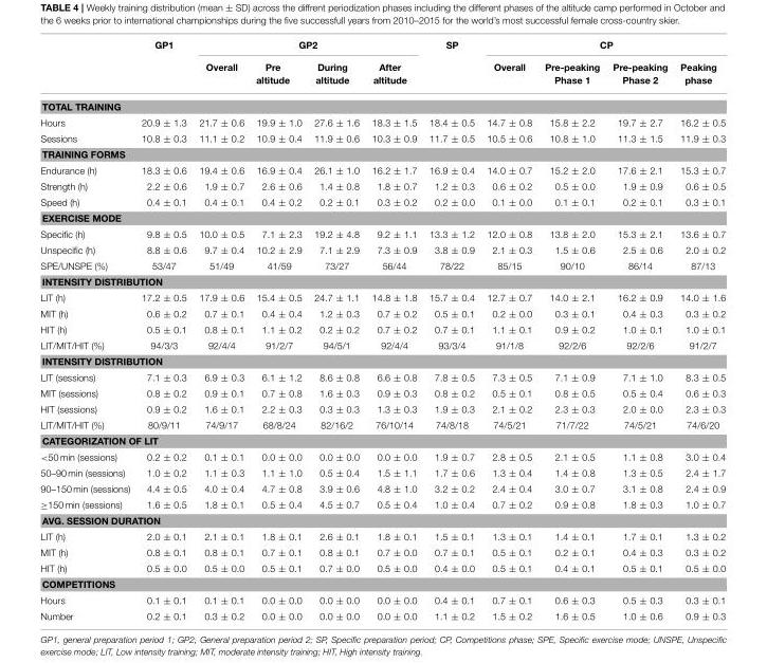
<table><thead><tr><td rowspan="2"></td><td rowspan="2">GP1</td><td colspan="4">GP2</td><td rowspan="2">SP</td><td colspan="4">CP</td></tr><tr><td>Overall</td><td>Pre altitude</td><td>During altitude</td><td>After altitude</td><td>Overall</td><td>Pre-peaking Phase 1</td><td>Pre-peaking Phase 2</td><td>Peaking phase</td></tr></thead><tbody><tr><td colspan="11">TOTAL TRAINING</td></tr><tr><td>Hours</td><td>20.9 ± 1.3</td><td>21.7 ± 0.6</td><td>19.9 ± 1.0</td><td>27.6 ± 1.6</td><td>18.3 ± 1.5</td><td>18.4 ± 0.5</td><td>14.7 ± 0.8</td><td>15.8 ± 2.2</td><td>19.7 ± 2.7</td><td>16.2 ± 0.5</td></tr><tr><td>Sessions</td><td>10.8 ± 0.3</td><td>11.1 ± 0.2</td><td>10.9 ± 0.4</td><td>11.9 ± 0.6</td><td>10.3 ± 0.9</td><td>11.7 ± 0.5</td><td>10.5 ± 0.6</td><td>10.8 ± 1.0</td><td>11.3 ± 1.5</td><td>11.9 ± 0.3</td></tr><tr><td colspan="11">TRAINING FORMS</td></tr><tr><td>Endurance (h)</td><td>18.3 ± 0.6</td><td>19.4 ± 0.6</td><td>16.9 ± 0.4</td><td>26.1 ± 1.0</td><td>16.2 ± 1.7</td><td>16.9 ± 0.4</td><td>14.0 ± 0.7</td><td>15.2 ± 2.0</td><td>17.6 ± 2.1</td><td>15.3 ± 0.7</td></tr><tr><td>Strength (h)</td><td>2.2 ± 0.6</td><td>1.9 ± 0.7</td><td>2.6 ± 0.6</td><td>1.4 ± 0.8</td><td>1.8 ± 0.7</td><td>1.2 ± 0.3</td><td>0.6 ± 0.2</td><td>0.5 ± 0.0</td><td>1.9 ± 0.9</td><td>0.6 ± 0.5</td></tr><tr><td>Speed (h)</td><td>0.4 ± 0.1</td><td>0.4 ± 0.1</td><td>0.4 ± 0.2</td><td>0.2 ± 0.1</td><td>0.3 ± 0.2</td><td>0.2 ± 0.0</td><td>0.1 ± 0.0</td><td>0.1 ± 0.1</td><td>0.2 ± 0.1</td><td>0.3 ± 0.1</td></tr><tr><td colspan="11">EXERCISE MODE</td></tr><tr><td>Specific (h)</td><td>9.8 ± 0.5</td><td>10.0 ± 0.5</td><td>7.1 ± 2.3</td><td>19.2 ± 4.8</td><td>9.2 ± 1.1</td><td>13.3 ± 1.2</td><td>12.0 ± 0.8</td><td>13.8 ± 2.0</td><td>15.3 ± 2.1</td><td>13.6 ± 0.7</td></tr><tr><td>Unspecific (h)</td><td>8.8 ± 0.6</td><td>9.7 ± 0.4</td><td>10.2 ± 2.9</td><td>7.1 ± 2.9</td><td>7.3 ± 0.9</td><td>3.8 ± 0.9</td><td>2.1 ± 0.3</td><td>1.5 ± 0.6</td><td>2.5 ± 0.6</td><td>2.0 ± 0.2</td></tr><tr><td>SPE/UNSPE (%)</td><td>53/47</td><td>51/49</td><td>41/59</td><td>73/27</td><td>56/44</td><td>78/22</td><td>85/15</td><td>90/10</td><td>86/14</td><td>87/13</td></tr><tr><td colspan="11">INTENSITY DISTRIBUTION</td></tr><tr><td>LIT (h)</td><td>17.2 ± 0.5</td><td>17.9 ± 0.6</td><td>15.4 ± 0.5</td><td>24.7 ± 1.1</td><td>14.8 ± 1.8</td><td>15.7 ± 0.4</td><td>12.7 ± 0.7</td><td>14.0 ± 2.1</td><td>16.2 ± 0.9</td><td>14.0 ± 1.6</td></tr><tr><td>MIT (h)</td><td>0.6 ± 0.2</td><td>0.7 ± 0.1</td><td>0.4 ± 0.4</td><td>1.2 ± 0.3</td><td>0.7 ± 0.2</td><td>0.5 ± 0.1</td><td>0.2 ± 0.0</td><td>0.3 ± 0.1</td><td>0.4 ± 0.3</td><td>0.3 ± 0.2</td></tr><tr><td>HIT (h)</td><td>0.5 ± 0.1</td><td>0.8 ± 0.1</td><td>1.1 ± 0.2</td><td>0.2 ± 0.2</td><td>0.7 ± 0.2</td><td>0.7 ± 0.1</td><td>1.1 ± 0.1</td><td>0.9 ± 0.2</td><td>1.0 ± 0.1</td><td>1.0 ± 0.1</td></tr><tr><td>LIT/MIT/HIT (%)</td><td>94/3/3</td><td>92/4/4</td><td>91/2/7</td><td>94/5/1</td><td>92/4/4</td><td>93/3/4</td><td>91/1/8</td><td>92/2/6</td><td>92/2/6</td><td>91/2/7</td></tr><tr><td colspan="11">INTENSITY DISTRIBUTION</td></tr><tr><td>LIT (sessions)</td><td>7.1 ± 0.3</td><td>6.9 ± 0.3</td><td>6.1 ± 1.2</td><td>8.6 ± 0.8</td><td>6.6 ± 0.8</td><td>7.8 ± 0.5</td><td>7.3 ± 0.5</td><td>7.1 ± 0.9</td><td>7.1 ± 1.0</td><td>8.3 ± 0.5</td></tr><tr><td>MIT (sessions)</td><td>0.8 ± 0.2</td><td>0.9 ± 0.1</td><td>0.7 ± 0.8</td><td>1.6 ± 0.3</td><td>0.9 ± 0.3</td><td>0.8 ± 0.2</td><td>0.5 ± 0.1</td><td>0.8 ± 0.5</td><td>0.5 ± 0.4</td><td>0.6 ± 0.3</td></tr><tr><td>HIT (sessions)</td><td>0.9 ± 0.2</td><td>1.6 ± 0.1</td><td>2.2 ± 0.3</td><td>0.3 ± 0.3</td><td>1.3 ± 0.3</td><td>1.9 ± 0.3</td><td>2.1 ± 0.2</td><td>2.3 ± 0.3</td><td>2.0 ± 0.0</td><td>2.3 ± 0.3</td></tr><tr><td>LIT/MIT/HIT (%)</td><td>80/9/11</td><td>74/9/17</td><td>68/8/24</td><td>82/16/2</td><td>76/10/14</td><td>74/8/18</td><td>74/5/21</td><td>71/7/22</td><td>74/5/21</td><td>74/6/20</td></tr><tr><td colspan="11">CATEGORIZATION OF LIT</td></tr><tr><td>&lt;50 min (sessions)</td><td>0.2 ± 0.2</td><td>0.1 ± 0.1</td><td>0.0 ± 0.0</td><td>0.0 ± 0.0</td><td>0.0 ± 0.0</td><td>1.9 ± 0.7</td><td>2.8 ± 0.5</td><td>2.1 ± 0.5</td><td>1.1 ± 0.8</td><td>3.0 ± 0.4</td></tr><tr><td>50–90 min (sessions)</td><td>1.0 ± 0.2</td><td>1.1 ± 0.3</td><td>1.1 ± 1.0</td><td>0.5 ± 0.4</td><td>1.5 ± 1.1</td><td>1.7 ± 0.6</td><td>1.3 ± 0.4</td><td>1.4 ± 0.8</td><td>1.3 ± 0.5</td><td>2.4 ± 1.7</td></tr><tr><td>90–150 min (sessions)</td><td>4.4 ± 0.5</td><td>4.0 ± 0.4</td><td>4.7 ± 0.8</td><td>3.9 ± 0.6</td><td>4.8 ± 1.0</td><td>3.2 ± 0.2</td><td>2.4 ± 0.4</td><td>3.0 ± 0.7</td><td>3.1 ± 0.8</td><td>2.4 ± 0.9</td></tr><tr><td>≥150 min (sessions)</td><td>1.6 ± 0.5</td><td>1.8 ± 0.1</td><td>0.5 ± 0.4</td><td>4.5 ± 0.7</td><td>0.5 ± 0.4</td><td>1.0 ± 0.4</td><td>0.7 ± 0.2</td><td>0.9 ± 0.8</td><td>1.8 ± 0.3</td><td>1.0 ± 0.7</td></tr><tr><td colspan="11">AVG. SESSION DURATION</td></tr><tr><td>LIT (h)</td><td>2.0 ± 0.1</td><td>2.1 ± 0.1</td><td>1.8 ± 0.1</td><td>2.6 ± 0.1</td><td>1.8 ± 0.1</td><td>1.5 ± 0.1</td><td>1.3 ± 0.1</td><td>1.4 ± 0.1</td><td>1.7 ± 0.1</td><td>1.3 ± 0.2</td></tr><tr><td>MIT (h)</td><td>0.8 ± 0.1</td><td>0.8 ± 0.1</td><td>0.7 ± 0.1</td><td>0.8 ± 0.1</td><td>0.7 ± 0.0</td><td>0.7 ± 0.1</td><td>0.5 ± 0.1</td><td>0.2 ± 0.1</td><td>0.4 ± 0.3</td><td>0.3 ± 0.2</td></tr><tr><td>HIT (h)</td><td>0.5 ± 0.0</td><td>0.5 ± 0.0</td><td>0.5 ± 0.1</td><td>0.7 ± 0.0</td><td>0.5 ± 0.0</td><td>0.4 ± 0.0</td><td>0.5 ± 0.1</td><td>0.4 ± 0.1</td><td>0.5 ± 0.1</td><td>0.5 ± 0.0</td></tr><tr><td colspan="11">COMPETITIONS</td></tr><tr><td>Hours</td><td>0.1 ± 0.1</td><td>0.1 ± 0.1</td><td>0.0 ± 0.0</td><td>0.0 ± 0.0</td><td>0.0 ± 0.0</td><td>0.4 ± 0.1</td><td>0.7 ± 0.1</td><td>0.6 ± 0.3</td><td>0.5 ± 0.3</td><td>0.3 ± 0.1</td></tr><tr><td>Number</td><td>0.2 ± 0.1</td><td>0.3 ± 0.2</td><td>0.0 ± 0.0</td><td>0.0 ± 0.0</td><td>0.0 ± 0.0</td><td>1.1 ± 0.2</td><td>1.5 ± 0.2</td><td>1.6 ± 0.5</td><td>1.0 ± 0.6</td><td>0.9 ± 0.3</td></tr></tbody></table>